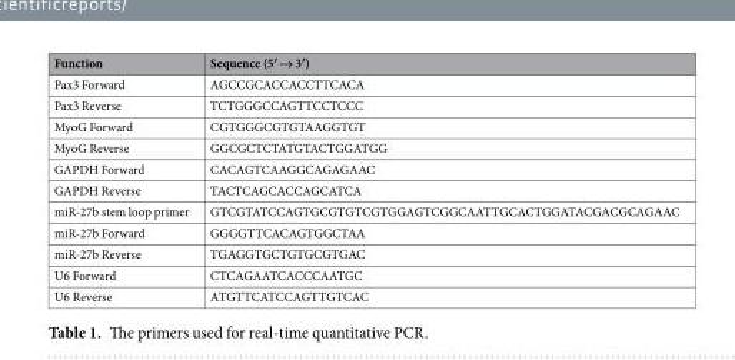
<table><thead><tr><td>Function</td><td>Sequence (5′ → 3′)</td></tr></thead><tbody><tr><td>Pax3 Forward</td><td>AGCCGCACCACCTTCACA</td></tr><tr><td>Pax3 Reverse</td><td>TCTGGGCCAGTTCCTCCC</td></tr><tr><td>MyoG Forward</td><td>CGTGGGCGTGTAAGGTGT</td></tr><tr><td>MyoG Reverse</td><td>GGCGCTCTATGTACTGGATGG</td></tr><tr><td>GAPDH Forward</td><td>CACAGTCAAGGCAGAGAAC</td></tr><tr><td>GAPDH Reverse</td><td>TACTCAGCACCAGCATCA</td></tr><tr><td>miR-27b stem loop primer</td><td>GTCGTATCCAGTGCGTGTCGTGGAGTCGGCAATTGCACTGGATACGACGCAGAAC</td></tr><tr><td>miR-27b Forward</td><td>GGGGTTCACAGTGGCTAA</td></tr><tr><td>miR-27b Reverse</td><td>TGAGGTGCTGTGCGTGAC</td></tr><tr><td>U6 Forward</td><td>CTCAGAATCACCCAATGC</td></tr><tr><td>U6 Reverse</td><td>ATGTTCATCCAGTTGTCAC</td></tr></tbody></table>